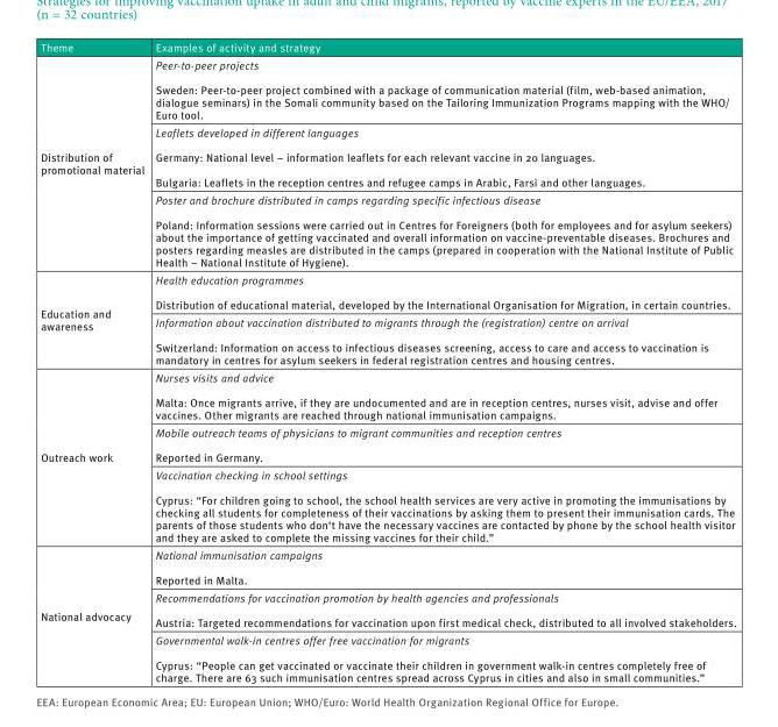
<table><thead><tr><td>Theme</td><td>Examples of activity and strategy</td></tr></thead><tbody><tr><td rowspan="3">Distribution of promotional material</td><td>Peer-to-peer projects Sweden: Peer-to-peer project combined with a package of communication material (film, web-based animation, dialogue seminars) in the Somali community based on the Tailoring Immunization Programs mapping with the WHO/ Euro tool.</td></tr><tr><td>Leaflets developed in different languages Germany: National level – information leaflets for each relevant vaccine in 20 languages. Bulgaria: Leaflets in the reception centres and refugee camps in Arabic, Farsi and other languages.</td></tr><tr><td>Poster and brochure distributed in camps regarding specific infectious disease Poland: Information sessions were carried out in Centres for Foreigners (both for employees and for asylum seekers) about the importance of getting vaccinated and overall information on vaccine-preventable diseases. Brochures and posters regarding measles are distributed in the camps (prepared in cooperation with the National Institute of Public Health – National Institute of Hygiene).</td></tr><tr><td rowspan="2">Education and awareness</td><td>Health education programmes Distribution of educational material, developed by the International Organisation for Migration, in certain countries.</td></tr><tr><td>Information about vaccination distributed to migrants through the (registration) centre on arrival Switzerland: Information on access to infectious diseases screening, access to care and access to vaccination is mandatory in centres for asylum seekers in federal registration centres and housing centres.</td></tr><tr><td rowspan="3">Outreach work</td><td>Nurses visits and advice Malta: Once migrants arrive, if they are undocumented and are in reception centres, nurses visit, advise and offer vaccines. Other migrants are reached through national immunisation campaigns.</td></tr><tr><td>Mobile outreach teams of physicians to migrant communities and reception centres Reported in Germany.</td></tr><tr><td>Vaccination checking in school settings Cyprus: “For children going to school, the school health services are very active in promoting the immunisations by checking all students for completeness of their vaccinations by asking them to present their immunisation cards. The parents of those students who don‘t have the necessary vaccines are contacted by phone by the school health visitor and they are asked to complete the missing vaccines for their child.”</td></tr><tr><td rowspan="3">National advocacy</td><td>National immunisation campaigns Reported in Malta.</td></tr><tr><td>Recommendations for vaccination promotion by health agencies and professionals Austria: Targeted recommendations for vaccination upon first medical check, distributed to all involved stakeholders.</td></tr><tr><td>Governmental walk-in centres offer free vaccination for migrants Cyprus: “People can get vaccinated or vaccinate their children in government walk-in centres completely free of charge. There are 63 such immunisation centres spread across Cyprus in cities and also in small communities.”</td></tr></tbody></table>